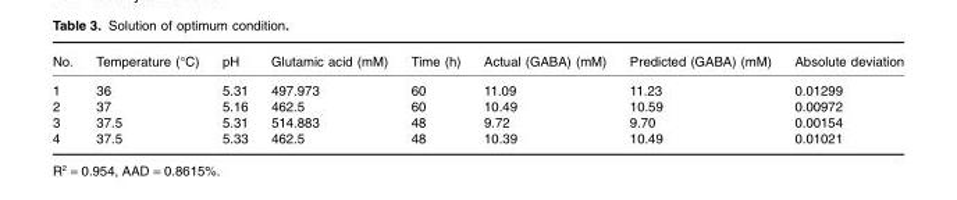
<table><thead><tr><td>No.</td><td>Temperature (°C)</td><td>pH</td><td>Glutamic acid (mM)</td><td>Time (h)</td><td>Actual (GABA) (mM)</td><td>Predicted (GABA) (mM)</td><td>Absolute deviation</td></tr></thead><tbody><tr><td>1</td><td>36</td><td>5.31</td><td>497.973</td><td>60</td><td>11.09</td><td>11.23</td><td>0.01299</td></tr><tr><td>2</td><td>37</td><td>5.16</td><td>462.5</td><td>60</td><td>10.49</td><td>10.59</td><td>0.00972</td></tr><tr><td>3</td><td>37.5</td><td>5.31</td><td>514.883</td><td>48</td><td>9.72</td><td>9.70</td><td>0.00154</td></tr><tr><td>4</td><td>37.5</td><td>5.33</td><td>462.5</td><td>48</td><td>10.39</td><td>10.49</td><td>0.01021</td></tr></tbody></table>